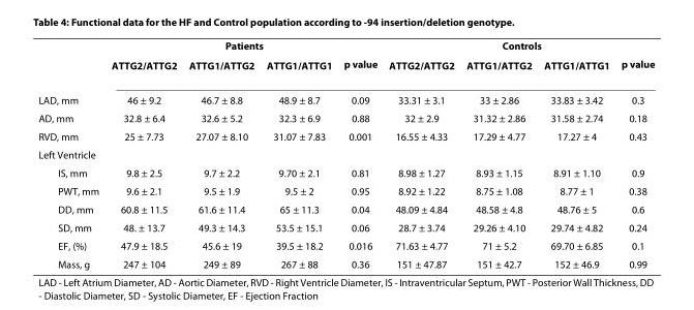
<table><thead><tr><td rowspan="2"></td><td colspan="4">Patients</td><td colspan="4">Controls</td></tr><tr><td>ATTG<sub>2</sub>/ATTG<sub>2</sub></td><td>ATTG<sub>1</sub>/ATTG<sub>2</sub></td><td>ATTG<sub>1</sub>/ATTG<sub>1</sub></td><td>p value</td><td>ATTG<sub>2</sub>/ATTG<sub>2</sub></td><td>ATTG<sub>1</sub>/ATTG<sub>2</sub></td><td>ATTG<sub>1</sub>/ATTG<sub>1</sub></td><td>p value</td></tr></thead><tbody><tr><td>LAD, mm</td><td>46 ± 9.2</td><td>46.7 ± 8.8</td><td>48.9 ± 8.7</td><td>0.09</td><td>33.31 ± 3.1</td><td>33 ± 2.86</td><td>33.83 ± 3.42</td><td>0.3</td></tr><tr><td>AD, mm</td><td>32.8 ± 6.4</td><td>32.6 ± 5.2</td><td>32.3 ± 6.9</td><td>0.88</td><td>32 ± 2.9</td><td>31.32 ± 2.86</td><td>31.58 ± 2.74</td><td>0.18</td></tr><tr><td>RVD, mm</td><td>25 ± 7.73</td><td>27.07 ± 8.10</td><td>31.07 ± 7.83</td><td>0.001</td><td>16.55 ± 4.33</td><td>17.29 ± 4.77</td><td>17.27 ± 4</td><td>0.43</td></tr><tr><td colspan="9">Left Ventricle</td></tr><tr><td>IS, mm</td><td>9.8 ± 2.5</td><td>9.7 ± 2.2</td><td>9.70 ± 2.1</td><td>0.81</td><td>8.98 ± 1.27</td><td>8.93 ± 1.15</td><td>8.91 ± 1.10</td><td>0.9</td></tr><tr><td>PWT, mm</td><td>9.6 ± 2.1</td><td>9.5 ± 1.9</td><td>9.5 ± 2</td><td>0.95</td><td>8.92 ± 1.22</td><td>8.75 ± 1.08</td><td>8.77 ± 1</td><td>0.38</td></tr><tr><td>DD, mm</td><td>60.8 ± 11.5</td><td>61.6 ± 11.4</td><td>65 ± 11.3</td><td>0.04</td><td>48.09 ± 4.84</td><td>48.58 ± 4.8</td><td>48.76 ± 5</td><td>0.6</td></tr><tr><td>SD, mm</td><td>48. ± 13.7</td><td>49.3 ± 14.3</td><td>53.5 ± 15.1</td><td>0.06</td><td>28.7 ± 3.74</td><td>29.26 ± 4.10</td><td>29.74 ± 4.82</td><td>0.24</td></tr><tr><td>EF, (%)</td><td>47.9 ± 18.5</td><td>45.6 ± 19</td><td>39.5 ± 18.2</td><td>0.016</td><td>71.63 ± 4.77</td><td>71 ± 5.2</td><td>69.70 ± 6.85</td><td>0.1</td></tr><tr><td>Mass, g</td><td>247 ± 104</td><td>249 ± 89</td><td>267 ± 88</td><td>0.36</td><td>151 ± 47.87</td><td>151 ± 42.7</td><td>152 ± 46.9</td><td>0.99</td></tr></tbody></table>